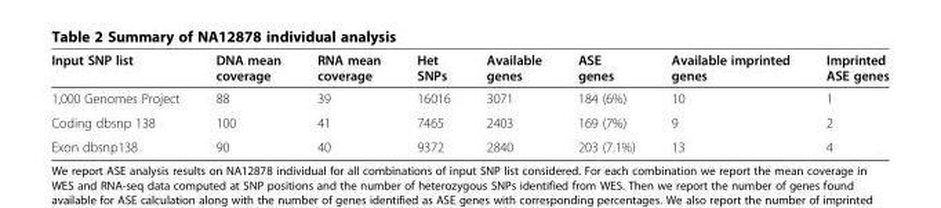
<table><thead><tr><td>Input SNP list</td><td>DNA mean coverage</td><td>RNA mean coverage</td><td>Het SNPs</td><td>Available genes</td><td>ASE genes</td><td>Available imprinted genes</td><td>Imprinted ASE genes</td></tr></thead><tbody><tr><td>1,000 Genomes Project</td><td>88</td><td>39</td><td>16016</td><td>3071</td><td>184 (6%)</td><td>10</td><td>1</td></tr><tr><td>Coding dbsnp 138</td><td>100</td><td>41</td><td>7465</td><td>2403</td><td>169 (7%)</td><td>9</td><td>2</td></tr><tr><td>Exon dbsnp138</td><td>90</td><td>40</td><td>9372</td><td>2840</td><td>203 (7.1%)</td><td>13</td><td>4</td></tr></tbody></table>